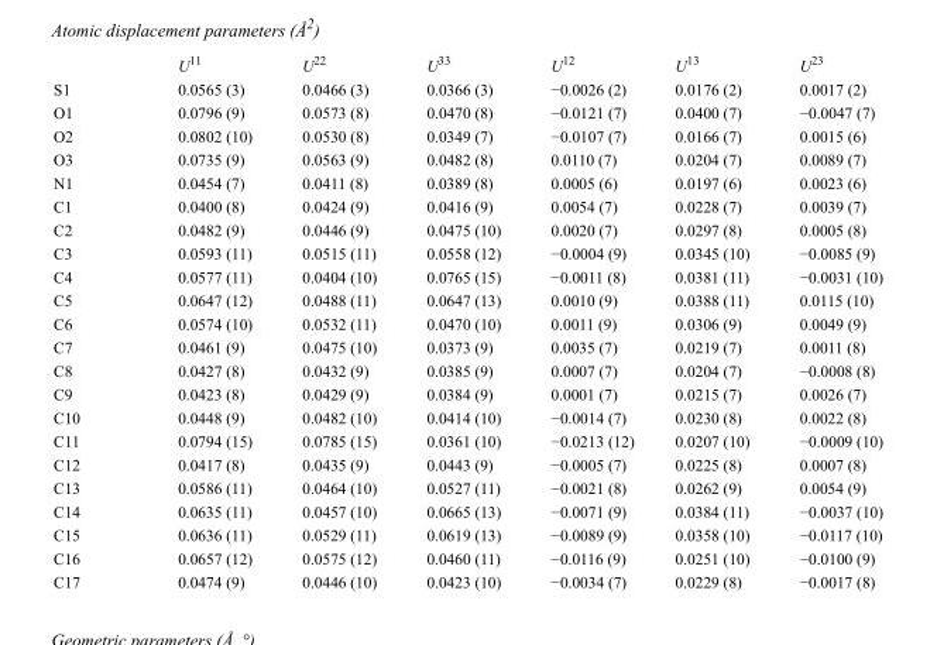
<table><thead><tr><td></td><td>U<sup>11</sup></td><td>U<sup>22</sup></td><td>U<sup>33</sup></td><td>U<sup>12</sup></td><td>U<sup>13</sup></td><td>U<sup>23</sup></td></tr></thead><tbody><tr><td>S1</td><td>0.0565 (3)</td><td>0.0466 (3)</td><td>0.0366 (3)</td><td>−0.0026 (2)</td><td>0.0176 (2)</td><td>0.0017 (2)</td></tr><tr><td>O1</td><td>0.0796 (9)</td><td>0.0573 (8)</td><td>0.0470 (8)</td><td>−0.0121 (7)</td><td>0.0400 (7)</td><td>−0.0047 (7)</td></tr><tr><td>O2</td><td>0.0802 (10)</td><td>0.0530 (8)</td><td>0.0349 (7)</td><td>−0.0107 (7)</td><td>0.0166 (7)</td><td>0.0015 (6)</td></tr><tr><td>O3</td><td>0.0735 (9)</td><td>0.0563 (9)</td><td>0.0482 (8)</td><td>0.0110 (7)</td><td>0.0204 (7)</td><td>0.0089 (7)</td></tr><tr><td>N1</td><td>0.0454 (7)</td><td>0.0411 (8)</td><td>0.0389 (8)</td><td>0.0005 (6)</td><td>0.0197 (6)</td><td>0.0023 (6)</td></tr><tr><td>C1</td><td>0.0400 (8)</td><td>0.0424 (9)</td><td>0.0416 (9)</td><td>0.0054 (7)</td><td>0.0228 (7)</td><td>0.0039 (7)</td></tr><tr><td>C2</td><td>0.0482 (9)</td><td>0.0446 (9)</td><td>0.0475 (10)</td><td>0.0020 (7)</td><td>0.0297 (8)</td><td>0.0005 (8)</td></tr><tr><td>C3</td><td>0.0593 (11)</td><td>0.0515 (11)</td><td>0.0558 (12)</td><td>−0.0004 (9)</td><td>0.0345 (10)</td><td>−0.0085 (9)</td></tr><tr><td>C4</td><td>0.0577 (11)</td><td>0.0404 (10)</td><td>0.0765 (15)</td><td>−0.0011 (8)</td><td>0.0381 (11)</td><td>−0.0031 (10)</td></tr><tr><td>C5</td><td>0.0647 (12)</td><td>0.0488 (11)</td><td>0.0647 (13)</td><td>0.0010 (9)</td><td>0.0388 (11)</td><td>0.0115 (10)</td></tr><tr><td>C6</td><td>0.0574 (10)</td><td>0.0532 (11)</td><td>0.0470 (10)</td><td>0.0011 (9)</td><td>0.0306 (9)</td><td>0.0049 (9)</td></tr><tr><td>C7</td><td>0.0461 (9)</td><td>0.0475 (10)</td><td>0.0373 (9)</td><td>0.0035 (7)</td><td>0.0219 (7)</td><td>0.0011 (8)</td></tr><tr><td>C8</td><td>0.0427 (8)</td><td>0.0432 (9)</td><td>0.0385 (9)</td><td>0.0007 (7)</td><td>0.0204 (7)</td><td>−0.0008 (8)</td></tr><tr><td>C9</td><td>0.0423 (8)</td><td>0.0429 (9)</td><td>0.0384 (9)</td><td>0.0001 (7)</td><td>0.0215 (7)</td><td>0.0026 (7)</td></tr><tr><td>C10</td><td>0.0448 (9)</td><td>0.0482 (10)</td><td>0.0414 (10)</td><td>−0.0014 (7)</td><td>0.0230 (8)</td><td>0.0022 (8)</td></tr><tr><td>C11</td><td>0.0794 (15)</td><td>0.0785 (15)</td><td>0.0361 (10)</td><td>−0.0213 (12)</td><td>0.0207 (10)</td><td>−0.0009 (10)</td></tr><tr><td>C12</td><td>0.0417 (8)</td><td>0.0435 (9)</td><td>0.0443 (9)</td><td>−0.0005 (7)</td><td>0.0225 (8)</td><td>0.0007 (8)</td></tr><tr><td>C13</td><td>0.0586 (11)</td><td>0.0464 (10)</td><td>0.0527 (11)</td><td>−0.0021 (8)</td><td>0.0262 (9)</td><td>0.0054 (9)</td></tr><tr><td>C14</td><td>0.0635 (11)</td><td>0.0457 (10)</td><td>0.0665 (13)</td><td>−0.0071 (9)</td><td>0.0384 (11)</td><td>−0.0037 (10)</td></tr><tr><td>C15</td><td>0.0636 (11)</td><td>0.0529 (11)</td><td>0.0619 (13)</td><td>−0.0089 (9)</td><td>0.0358 (10)</td><td>−0.0117 (10)</td></tr><tr><td>C16</td><td>0.0657 (12)</td><td>0.0575 (12)</td><td>0.0460 (11)</td><td>−0.0116 (9)</td><td>0.0251 (10)</td><td>−0.0100 (9)</td></tr><tr><td>C17</td><td>0.0474 (9)</td><td>0.0446 (10)</td><td>0.0423 (10)</td><td>−0.0034 (7)</td><td>0.0229 (8)</td><td>−0.0017 (8)</td></tr></tbody></table>